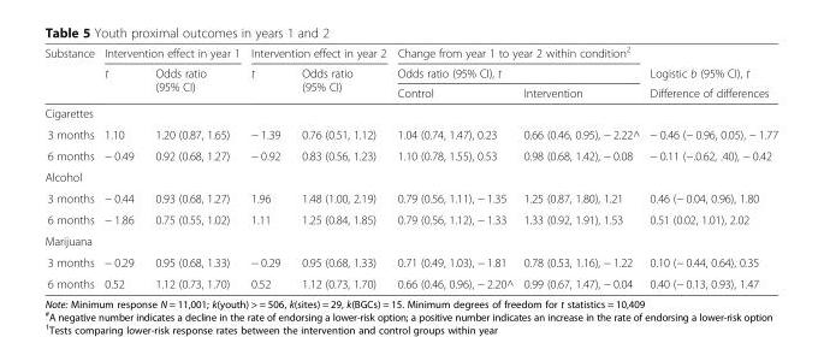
<table><thead><tr><td rowspan="3">Substance</td><td colspan="2">Intervention effect in year 1</td><td colspan="2">Intervention effect in year 2</td><td rowspan="2" colspan="2">Change from year 1 to year 2 within condition<sup>2</sup> Odds ratio (95% CI), t</td><td rowspan="3">Logistic b (95% CI), t Difference of differences</td></tr><tr><td rowspan="2">t</td><td rowspan="2">Odds ratio (95% CI)</td><td rowspan="2">t</td><td rowspan="2">Odds ratio (95% CI)</td></tr><tr><td>Control</td><td>Intervention</td></tr></thead><tbody><tr><td colspan="8">Cigarettes</td></tr><tr><td>3 months</td><td>1.10</td><td>1.20 (0.87, 1.65)</td><td>− 1.39</td><td>0.76 (0.51, 1.12)</td><td>1.04 (0.74, 1.47), 0.23</td><td>0.66 (0.46, 0.95), − 2.22^</td><td>− 0.46 (− 0.96, 0.05), − 1.77</td></tr><tr><td>6 months</td><td>− 0.49</td><td>0.92 (0.68, 1.27)</td><td>− 0.92</td><td>0.83 (0.56, 1.23)</td><td>1.10 (0.78, 1.55), 0.53</td><td>0.98 (0.68, 1.42), − 0.08</td><td>− 0.11 (−.0.62, .40), − 0.42</td></tr><tr><td colspan="8">Alcohol</td></tr><tr><td>3 months</td><td>− 0.44</td><td>0.93 (0.68, 1.27)</td><td>1.96</td><td>1.48 (1.00, 2.19)</td><td>0.79 (0.56, 1.11), − 1.35</td><td>1.25 (0.87, 1.80), 1.21</td><td>0.46 (− 0.04, 0.96), 1.80</td></tr><tr><td>6 months</td><td>− 1.86</td><td>0.75 (0.55, 1.02)</td><td>1.11</td><td>1.25 (0.84, 1.85)</td><td>0.79 (0.56, 1.12), − 1.33</td><td>1.33 (0.92, 1.91), 1.53</td><td>0.51 (0.02, 1.01), 2.02</td></tr><tr><td colspan="8">Marijuana</td></tr><tr><td>3 months</td><td>− 0.29</td><td>0.95 (0.68, 1.33)</td><td>− 0.29</td><td>0.95 (0.68, 1.33)</td><td>0.71 (0.49, 1.03), − 1.81</td><td>0.78 (0.53, 1.16), − 1.22</td><td>0.10 (− 0.44, 0.64), 0.35</td></tr><tr><td>6 months</td><td>0.52</td><td>1.12 (0.73, 1.70)</td><td>0.52</td><td>1.12 (0.73, 1.70)</td><td>0.66 (0.46, 0.96), − 2.20^</td><td>0.99 (0.67, 1.47), − 0.04</td><td>0.40 (− 0.13, 0.93), 1.47</td></tr></tbody></table>